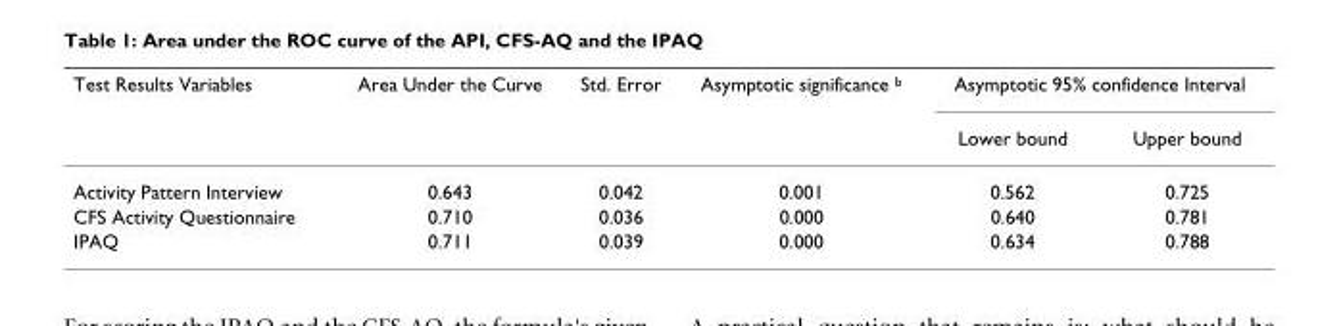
<table><thead><tr><td rowspan="2">Test Results Variables</td><td rowspan="2">Area Under the Curve</td><td rowspan="2">Std. Error</td><td rowspan="2">Asymptotic significance <sup>b</sup></td><td colspan="2">Asymptotic 95% confidence Interval</td></tr><tr><td>Lower bound</td><td>Upper bound</td></tr></thead><tbody><tr><td>Activity Pattern Interview</td><td>0.643</td><td>0.042</td><td>0.001</td><td>0.562</td><td>0.725</td></tr><tr><td>CFS Activity Questionnaire</td><td>0.710</td><td>0.036</td><td>0.000</td><td>0.640</td><td>0.781</td></tr><tr><td>IPAQ</td><td>0.711</td><td>0.039</td><td>0.000</td><td>0.634</td><td>0.788</td></tr></tbody></table>